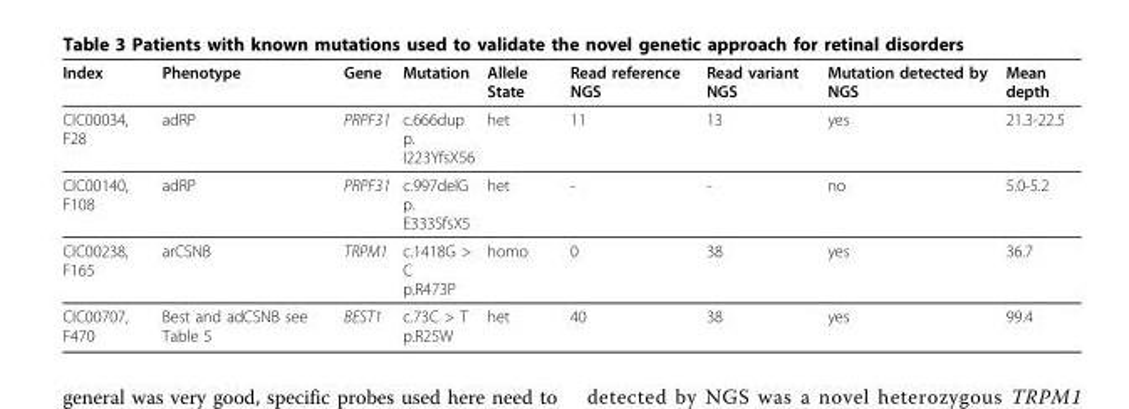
<table><thead><tr><td>Index</td><td>Phenotype</td><td>Gene</td><td>Mutation</td><td>Allele State</td><td>Read reference NGS</td><td>Read variant NGS</td><td>Mutation detected by NGS</td><td>Mean depth</td></tr></thead><tbody><tr><td>CIC00034, F28</td><td>adRP</td><td>PRPF31</td><td>c.666dup p. I223YfsX56</td><td>het</td><td>11</td><td>13</td><td>yes</td><td>21.3-22.5</td></tr><tr><td>CIC00140, F108</td><td>adRP</td><td>PRPF31</td><td>c.997delG p. E333SfsX5</td><td>het</td><td>-</td><td>-</td><td>no</td><td>5.0-5.2</td></tr><tr><td>CIC00238, F165</td><td>arCSNB</td><td>TRPM1</td><td>c.1418G &gt; C p.R473P</td><td>homo</td><td>0</td><td>38</td><td>yes</td><td>36.7</td></tr><tr><td>CIC00707, F470</td><td>Best and adCSNB see Table 5</td><td>BEST1</td><td>c.73C &gt; T p.R25W</td><td>het</td><td>40</td><td>38</td><td>yes</td><td>99.4</td></tr></tbody></table>